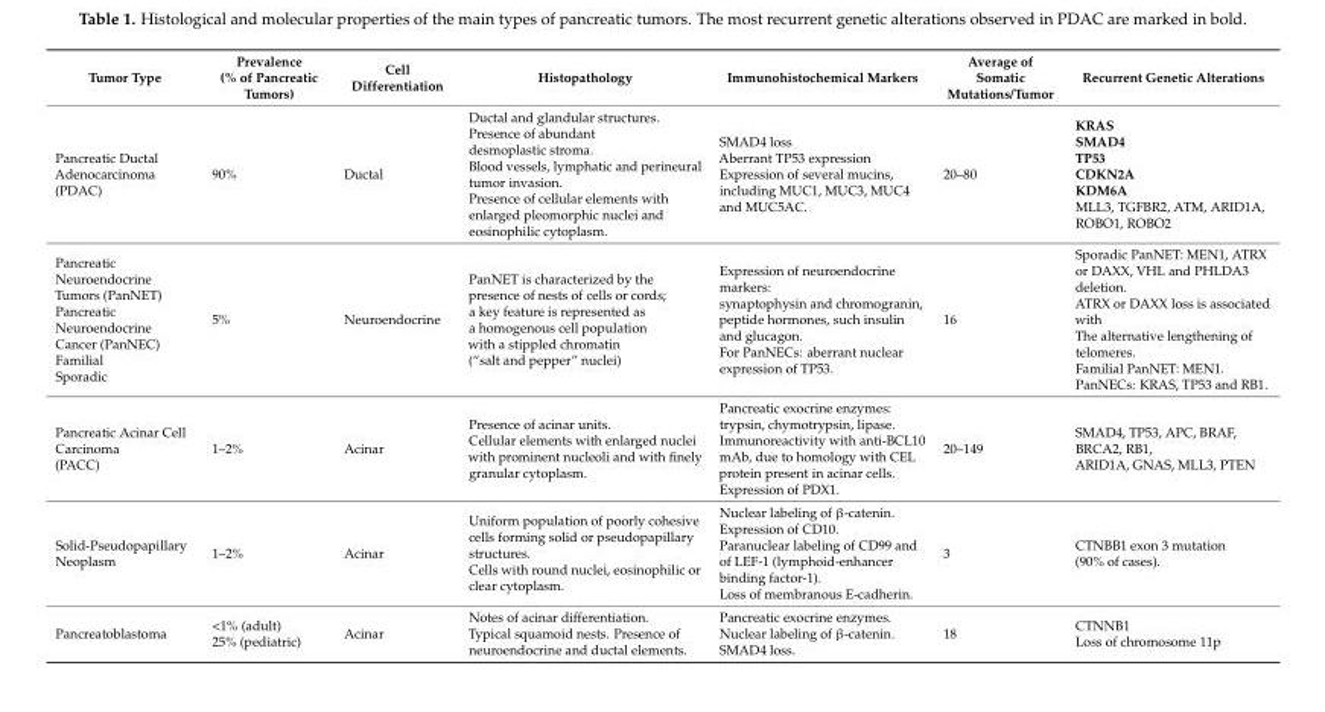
<table><thead><tr><td>Tumor Type</td><td>Prevalence (% of Pancreatic Tumors)</td><td>Cell Differentiation</td><td>Histopathology</td><td>Immunohistochemical Markers</td><td>Average of Somatic Mutations/Tumor</td><td>Recurrent Genetic Alterations</td></tr></thead><tbody><tr><td>Pancreatic Ductal Adenocarcinoma (PDAC)</td><td>90%</td><td>Ductal</td><td>Ductal and glandular structures. Presence of abundant desmoplastic stroma. Blood vessels, lymphatic and perineural tumor invasion. Presence of cellular elements with enlarged pleomorphic nuclei and eosinophilic cytoplasm.</td><td>SMAD4 loss Aberrant TP53 expression Expression of several mucins, including MUC1, MUC3, MUC4 and MUC5AC.</td><td>20–80</td><td>KRAS SMAD4 TP53 CDKN2A KDM6A MLL3, TGFBR2, ATM, ARID1A, ROBO1, ROBO2</td></tr><tr><td>Pancreatic Neuroendocrine Tumors (PanNET) Pancreatic Neuroendocrine Cancer (PanNEC) Familial Sporadic</td><td>5%</td><td>Neuroendocrine</td><td>PanNET is characterized by the presence of nests of cells or cords; a key feature is represented as a homogenous cell population with a stippled chromatin (“salt and pepper” nuclei)</td><td>Expression of neuroendocrine markers: synaptophysin and chromogranin, peptide hormones, such insulin and glucagon. For PanNECs: aberrant nuclear expression of TP53.</td><td>16</td><td>Sporadic PanNET: MEN1, ATRX or DAXX, VHL and PHLDA3 deletion. ATRX or DAXX loss is associated with The alternative lengthening of telomeres. Familial PanNET: MEN1. PanNECs: KRAS, TP53 and RB1.</td></tr><tr><td>Pancreatic Acinar Cell Carcinoma (PACC)</td><td>1–2%</td><td>Acinar</td><td>Presence of acinar units. Cellular elements with enlarged nuclei with prominent nucleoli and with finely granular cytoplasm.</td><td>Pancreatic exocrine enzymes: trypsin, chymotrypsin, lipase. Immunoreactivity with anti-BCL10 mAb, due to homology with CEL protein present in acinar cells. Expression of PDX1.</td><td>20–149</td><td>SMAD4, TP53, APC, BRAF, BRCA2, RB1, ARID1A, GNAS, MLL3, PTEN</td></tr><tr><td>Solid-Pseudopapillary Neoplasm</td><td>1–2%</td><td>Acinar</td><td>Uniform population of poorly cohesive cells forming solid or pseudopapillary structures. Cells with round nuclei, eosinophilic or clear cytoplasm.</td><td>Nuclear labeling of β-catenin. Expression of CD10. Paranuclear labeling of CD99 and of LEF-1 (lymphoid-enhancer binding factor-1). Loss of membranous E-cadherin.</td><td>3</td><td>CTNBB1 exon 3 mutation (90% of cases).</td></tr><tr><td>Pancreatoblastoma</td><td>&lt;1% (adult) 25% (pediatric)</td><td>Acinar</td><td>Notes of acinar differentiation. Typical squamoid nests. Presence of neuroendocrine and ductal elements.</td><td>Pancreatic exocrine enzymes. Nuclear labeling of β-catenin. SMAD4 loss.</td><td>18</td><td>CTNNB1 Loss of chromosome 11p</td></tr></tbody></table>